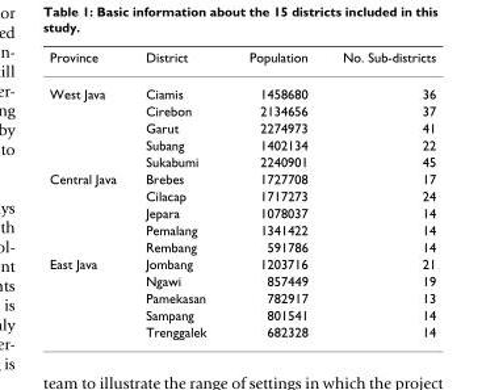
<table><thead><tr><td>Province</td><td>District</td><td>Population</td><td>No. Sub-districts</td></tr></thead><tbody><tr><td rowspan="5">West Java</td><td>Ciamis</td><td>1458680</td><td>36</td></tr><tr><td>Cirebon</td><td>2134656</td><td>37</td></tr><tr><td>Garut</td><td>2274973</td><td>41</td></tr><tr><td>Subang</td><td>1402134</td><td>22</td></tr><tr><td>Sukabumi</td><td>2240901</td><td>45</td></tr><tr><td rowspan="5">Central Java</td><td>Brebes</td><td>1727708</td><td>17</td></tr><tr><td>Cilacap</td><td>1717273</td><td>24</td></tr><tr><td>Jepara</td><td>1078037</td><td>14</td></tr><tr><td>Pemalang</td><td>1341422</td><td>14</td></tr><tr><td>Rembang</td><td>591786</td><td>14</td></tr><tr><td rowspan="5">East Java</td><td>Jombang</td><td>1203716</td><td>21</td></tr><tr><td>Ngawi</td><td>857449</td><td>19</td></tr><tr><td>Pamekasan</td><td>782917</td><td>13</td></tr><tr><td>Sampang</td><td>801541</td><td>14</td></tr><tr><td>Trenggalek</td><td>682328</td><td>14</td></tr></tbody></table>